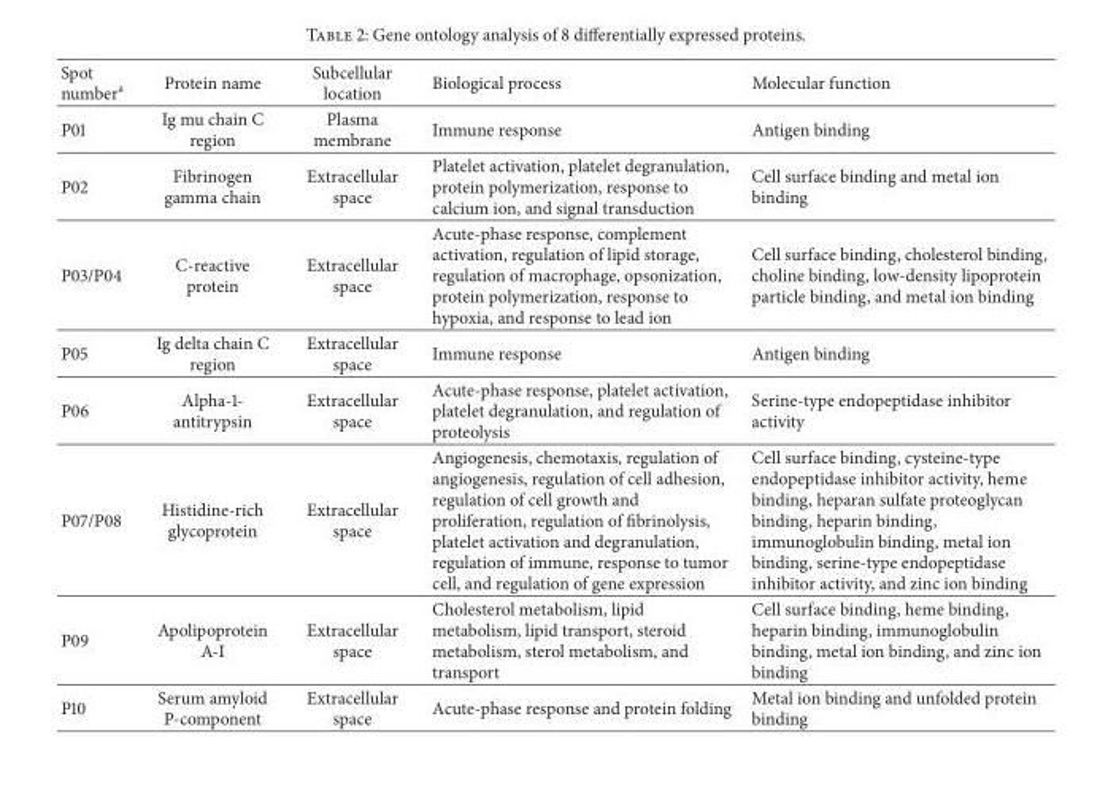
<table><thead><tr><td>Spot numbera</td><td>Protein name</td><td>Subcellular location</td><td>Biological process</td><td>Molecular function</td></tr></thead><tbody><tr><td>P01</td><td>Ig mu chain C region</td><td>Plasma membrane</td><td>Immune response</td><td>Antigen binding</td></tr><tr><td>P02</td><td>Fibrinogen gamma chain</td><td>Extracellular space</td><td>Platelet activation, platelet degranulation, protein polymerization, response to calcium ion, and signal transduction</td><td>Cell surface binding and metal ion binding</td></tr><tr><td>P03/P04</td><td>C-reactive protein</td><td>Extracellular space</td><td>Acute-phase response, complement activation, regulation of lipid storage, regulation of macrophage, opsonization, protein polymerization, response to hypoxia, and response to lead ion</td><td>Cell surface binding, cholesterol binding, choline binding, low-density lipoprotein particle binding, and metal ion binding</td></tr><tr><td>P05</td><td>Ig delta chain C region</td><td>Extracellular space</td><td>Immune response</td><td>Antigen binding</td></tr><tr><td>P06</td><td>Alpha-1- antitrypsin</td><td>Extracellular space</td><td>Acute-phase response, platelet activation, platelet degranulation, and regulation of proteolysis</td><td>Serine-type endopeptidase inhibitor activity</td></tr><tr><td>P07/P08</td><td>Histidine-rich glycoprotein</td><td>Extracellular space</td><td>Angiogenesis, chemotaxis, regulation of angiogenesis, regulation of cell adhesion, regulation of cell growth and proliferation, regulation of fibrinolysis, platelet activation and degranulation, regulation of immune, response to tumor cell, and regulation of gene expression</td><td>Cell surface binding, cysteine-type endopeptidase inhibitor activity, heme binding, heparan sulfate proteoglycan binding, heparin binding, immunoglobulin binding, metal ion binding, serine-type endopeptidase inhibitor activity, and zinc ion binding</td></tr><tr><td>P09</td><td>Apolipoprotein A-I</td><td>Extracellular space</td><td>Cholesterol metabolism, lipid metabolism, lipid transport, steroid metabolism, sterol metabolism, and transport</td><td>Cell surface binding, heme binding, heparin binding, immunoglobulin binding, metal ion binding, and zinc ion binding</td></tr><tr><td>P10</td><td>Serum amyloid P-component</td><td>Extracellular space</td><td>Acute-phase response and protein folding</td><td>Metal ion binding and unfolded protein binding</td></tr></tbody></table>